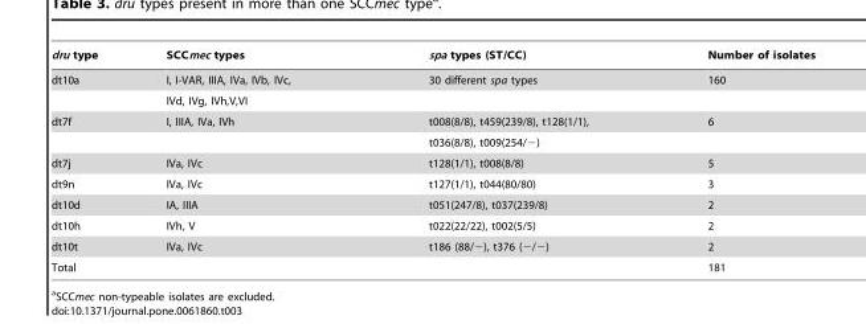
<table><thead><tr><td>dru type</td><td>SCCmec types</td><td>spa types (ST/CC)</td><td>Number of isolates</td></tr></thead><tbody><tr><td rowspan="2">dt10a</td><td>I, I-VAR, IIIA, IVa, IVb, IVc,</td><td>30 different spa types</td><td>160</td></tr><tr><td>IVd, IVg, IVh,V,VI</td><td></td><td></td></tr><tr><td rowspan="2">dt7f</td><td>I, IIIA, IVa, IVh</td><td>t008(8/8), t459(239/8), t128(1/1),</td><td>6</td></tr><tr><td></td><td>t036(8/8), t009(254/−)</td><td></td></tr><tr><td>dt7j</td><td>IVa, IVc</td><td>t128(1/1), t008(8/8)</td><td>5</td></tr><tr><td>dt9n</td><td>IVa, IVc</td><td>t127(1/1), t044(80/80)</td><td>3</td></tr><tr><td>dt10d</td><td>IA, IIIA</td><td>t051(247/8), t037(239/8)</td><td>2</td></tr><tr><td>dt10h</td><td>IVh, V</td><td>t022(22/22), t002(5/5)</td><td>2</td></tr><tr><td>dt10t</td><td>IVa, IVc</td><td>t186 (88/−), t376 (−/−)</td><td>2</td></tr><tr><td>Total</td><td></td><td></td><td>181</td></tr></tbody></table>